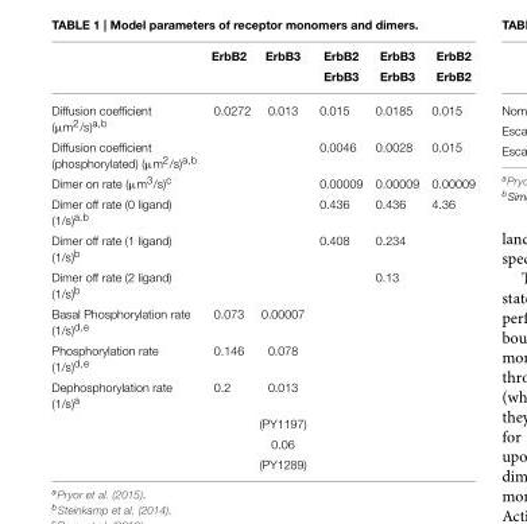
<table><thead><tr><td rowspan="2"></td><td rowspan="2">ErbB2</td><td rowspan="2">ErbB3</td><td rowspan="2">ErbB2 ErbB3</td><td rowspan="2">ErbB3 ErbB3</td><td rowspan="2">ErbB2 ErbB2</td></tr><tr></tr></thead><tbody><tr><td>Diffusion coefficient (µm<sup>2</sup>/s)<sup>a,b</sup></td><td>0.0272</td><td>0.013</td><td>0.015</td><td>0.0185</td><td>0.015</td></tr><tr><td>Diffusion coefficient (phosphorylated) (µm<sup>2</sup>/s)<sup>a,b</sup></td><td></td><td></td><td>0.0046</td><td>0.0028</td><td>0.015</td></tr><tr><td>Dimer on rate (µm<sup>3</sup>/s)<sup>c</sup></td><td></td><td></td><td>0.00009</td><td>0.00009</td><td>0.00009</td></tr><tr><td>Dimer off rate (0 ligand) (1/s)<sup>a,b</sup></td><td></td><td></td><td>0.436</td><td>0.436</td><td>4.36</td></tr><tr><td>Dimer off rate (1 ligand) (1/s)<sup>b</sup></td><td></td><td></td><td>0.408</td><td>0.234</td><td></td></tr><tr><td>Dimer off rate (2 ligand) (1/s)<sup>b</sup></td><td></td><td></td><td></td><td>0.13</td><td></td></tr><tr><td>Basal Phosphorylation rate (1/s)<sup>d,e</sup></td><td>0.073</td><td>0.00007</td><td></td><td></td><td></td></tr><tr><td>Phosphorylation rate (1/s)<sup>d,e</sup></td><td>0.146</td><td>0.078</td><td></td><td></td><td></td></tr><tr><td rowspan="4">Dephosphorylation rate (1/s)<sup>a</sup></td><td>0.2</td><td>0.013</td><td></td><td></td><td></td></tr><tr><td></td><td>(PY1197)</td><td></td><td></td><td></td></tr><tr><td></td><td>0.06</td><td></td><td></td><td></td></tr><tr><td></td><td>(PY1289)</td><td></td><td></td><td></td></tr></tbody></table>